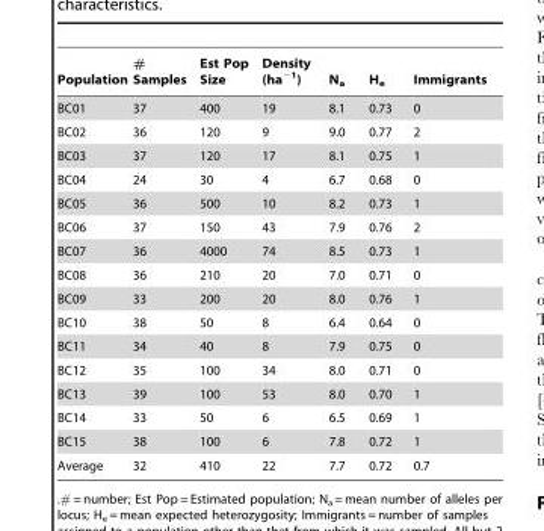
<table><thead><tr><td>Population</td><td># Samples</td><td>Est Pop Size</td><td>Density (ha<sup>−1</sup>)</td><td>N<sub>a</sub></td><td>H<sub>e</sub></td><td>Immigrants</td></tr></thead><tbody><tr><td>BC01</td><td>37</td><td>400</td><td>19</td><td>8.1</td><td>0.73</td><td>0</td></tr><tr><td>BC02</td><td>36</td><td>120</td><td>9</td><td>9.0</td><td>0.77</td><td>2</td></tr><tr><td>BC03</td><td>37</td><td>120</td><td>17</td><td>8.1</td><td>0.75</td><td>1</td></tr><tr><td>BC04</td><td>24</td><td>30</td><td>4</td><td>6.7</td><td>0.68</td><td>0</td></tr><tr><td>BC05</td><td>36</td><td>500</td><td>10</td><td>8.2</td><td>0.73</td><td>1</td></tr><tr><td>BC06</td><td>37</td><td>150</td><td>43</td><td>7.9</td><td>0.76</td><td>2</td></tr><tr><td>BC07</td><td>36</td><td>4000</td><td>74</td><td>8.5</td><td>0.73</td><td>1</td></tr><tr><td>BC08</td><td>36</td><td>210</td><td>20</td><td>7.0</td><td>0.71</td><td>0</td></tr><tr><td>BC09</td><td>33</td><td>200</td><td>20</td><td>8.0</td><td>0.76</td><td>1</td></tr><tr><td>BC10</td><td>38</td><td>50</td><td>8</td><td>6.4</td><td>0.64</td><td>0</td></tr><tr><td>BC11</td><td>34</td><td>40</td><td>8</td><td>7.9</td><td>0.75</td><td>0</td></tr><tr><td>BC12</td><td>35</td><td>100</td><td>34</td><td>8.0</td><td>0.71</td><td>0</td></tr><tr><td>BC13</td><td>39</td><td>100</td><td>53</td><td>8.0</td><td>0.70</td><td>1</td></tr><tr><td>BC14</td><td>33</td><td>50</td><td>6</td><td>6.5</td><td>0.69</td><td>1</td></tr><tr><td>BC15</td><td>38</td><td>100</td><td>6</td><td>7.8</td><td>0.72</td><td>1</td></tr><tr><td>Average</td><td>32</td><td>410</td><td>22</td><td>7.7</td><td>0.72</td><td>0.7</td></tr></tbody></table>